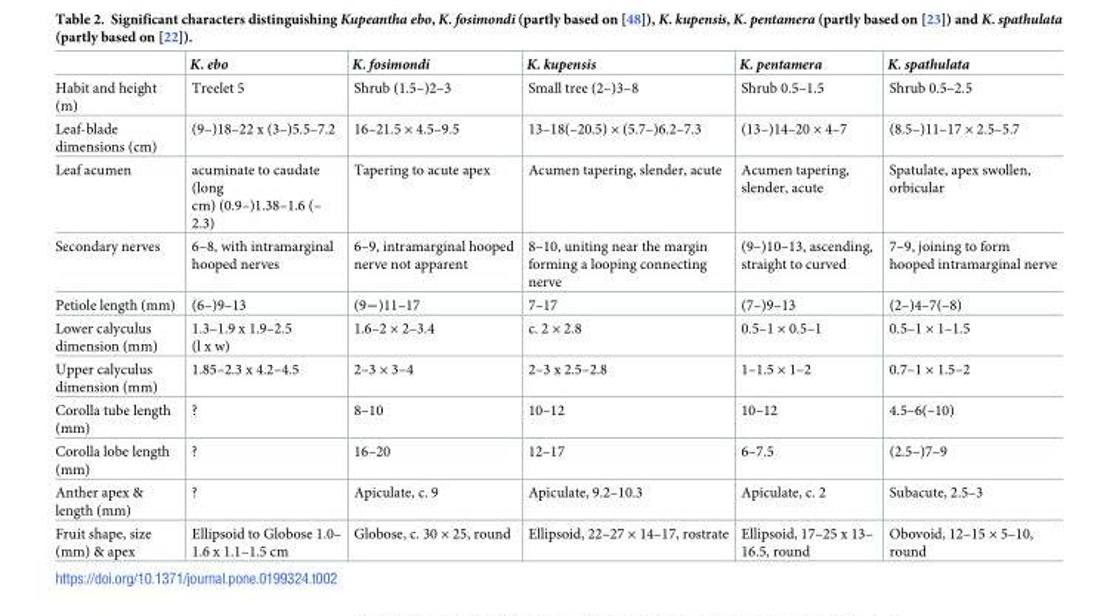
<table><thead><tr><td></td><td>K. ebo</td><td>K. fosimondi</td><td>K. kupensis</td><td>K. pentamera</td><td>K. spathulata</td></tr></thead><tbody><tr><td>Habit and height (m)</td><td>Treelet 5</td><td>Shrub (1.5–)2–3</td><td>Small tree (2–)3–8</td><td>Shrub 0.5–1.5</td><td>Shrub 0.5–2.5</td></tr><tr><td>Leaf-blade dimensions (cm)</td><td>(9–)18–22 x (3–)5.5–7.2</td><td>16–21.5 × 4.5–9.5</td><td>13–18(–20.5) × (5.7–)6.2–7.3</td><td>(13–)14–20 × 4–7</td><td>(8.5–)11–17 × 2.5–5.7</td></tr><tr><td>Leaf acumen</td><td>acuminate to caudate (long cm) (0.9–)1.38–1.6 (– 2.3)</td><td>Tapering to acute apex</td><td>Acumen tapering, slender, acute</td><td>Acumen tapering, slender, acute</td><td>Spatulate, apex swollen, orbicular</td></tr><tr><td>Secondary nerves</td><td>6–8, with intramarginal hooped nerves</td><td>6–9, intramarginal hooped nerve not apparent</td><td>8–10, uniting near the margin forming a looping connecting nerve</td><td>(9–)10–13, ascending, straight to curved</td><td>7–9, joining to form hooped intramarginal nerve</td></tr><tr><td>Petiole length (mm)</td><td>(6–)9–13</td><td>(9―)11–17</td><td>7–17</td><td>(7–)9–13</td><td>(2–)4–7(–8)</td></tr><tr><td>Lower calyculus dimension (mm)</td><td>1.3–1.9 x 1.9–2.5 (l x w)</td><td>1.6–2 × 2–3.4</td><td>c. 2 × 2.8</td><td>0.5–1 × 0.5–1</td><td>0.5–1 × 1–1.5</td></tr><tr><td>Upper calyculus dimension (mm)</td><td>1.85–2.3 x 4.2–4.5</td><td>2–3 × 3–4</td><td>2–3 x 2.5–2.8</td><td>1–1.5 × 1–2</td><td>0.7–1 × 1.5–2</td></tr><tr><td>Corolla tube length (mm)</td><td>?</td><td>8–10</td><td>10–12</td><td>10–12</td><td>4.5–6(–10)</td></tr><tr><td>Corolla lobe length (mm)</td><td>?</td><td>16–20</td><td>12–17</td><td>6–7.5</td><td>(2.5–)7–9</td></tr><tr><td>Anther apex &amp; length (mm)</td><td>?</td><td>Apiculate, c. 9</td><td>Apiculate, 9.2–10.3</td><td>Apiculate, c. 2</td><td>Subacute, 2.5–3</td></tr><tr><td>Fruit shape, size (mm) &amp; apex</td><td>Ellipsoid to Globose 1.0– 1.6 x 1.1–1.5 cm</td><td>Globose, c. 30 × 25, round</td><td>Ellipsoid, 22–27 × 14–17, rostrate</td><td>Ellipsoid, 17–25 x 13– 16.5, round</td><td>Obovoid, 12–15 × 5–10, round</td></tr></tbody></table>